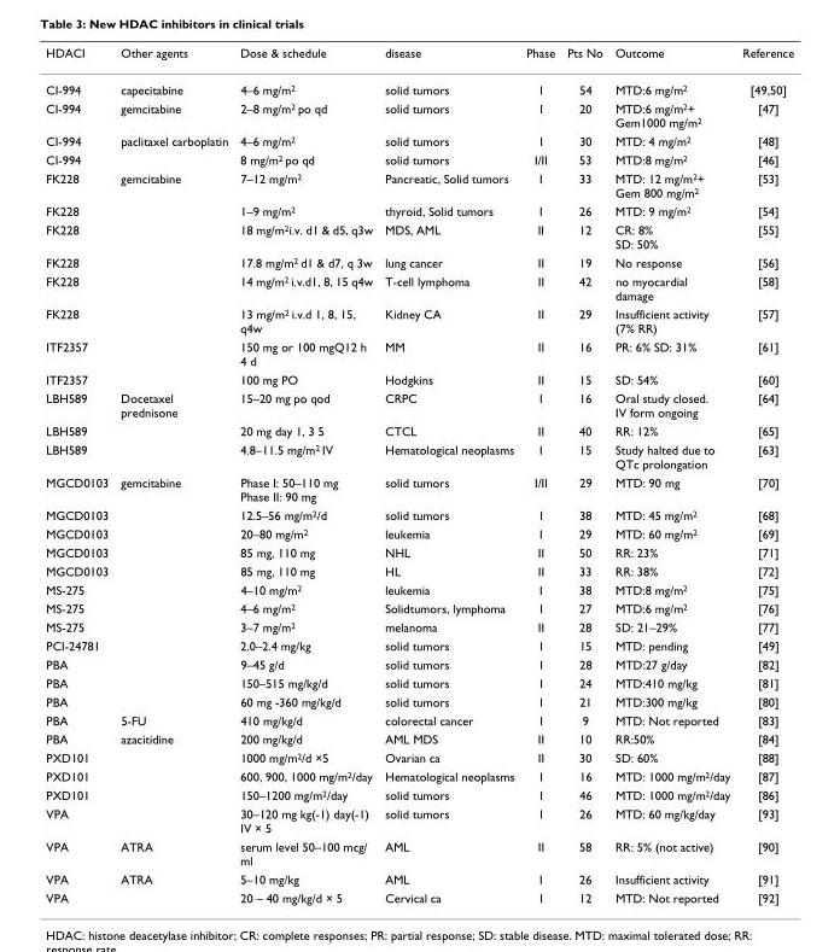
<table><thead><tr><td>HDACI</td><td>Other agents</td><td>Dose &amp; schedule</td><td>disease</td><td>Phase</td><td>Pts No</td><td>Outcome</td><td>Reference</td></tr></thead><tbody><tr><td>CI-994</td><td>capecitabine</td><td>4–6 mg/m<sup>2</sup></td><td>solid tumors</td><td>I</td><td>54</td><td>MTD:6 mg/m<sup>2</sup></td><td>[49,50]</td></tr><tr><td>CI-994</td><td>gemcitabine</td><td>2–8 mg/m<sup>2</sup> po qd</td><td>solid tumors</td><td>I</td><td>20</td><td>MTD:6 mg/m<sup>2</sup>+ Gem1000 mg/m<sup>2</sup></td><td>[47]</td></tr><tr><td>CI-994</td><td>paclitaxel carboplatin</td><td>4–6 mg/m<sup>2</sup></td><td>solid tumors</td><td>I</td><td>30</td><td>MTD: 4 mg/m<sup>2</sup></td><td>[48]</td></tr><tr><td>CI-994</td><td></td><td>8 mg/m<sup>2</sup> po qd</td><td>solid tumors</td><td>I/II</td><td>53</td><td>MTD:8 mg/m<sup>2</sup></td><td>[46]</td></tr><tr><td>FK228</td><td>gemcitabine</td><td>7–12 mg/m<sup>2</sup></td><td>Pancreatic, Solid tumors</td><td>I</td><td>33</td><td>MTD: 12 mg/m<sup>2</sup>+ Gem 800 mg/m<sup>2</sup></td><td>[53]</td></tr><tr><td>FK228</td><td></td><td>1–9 mg/m<sup>2</sup></td><td>thyroid, Solid tumors</td><td>I</td><td>26</td><td>MTD: 9 mg/m<sup>2</sup></td><td>[54]</td></tr><tr><td>FK228</td><td></td><td>18 mg/m<sup>2</sup>i.v. d1 &amp; d5, q3w</td><td>MDS, AML</td><td>II</td><td>12</td><td>CR: 8% SD: 50%</td><td>[55]</td></tr><tr><td>FK228</td><td></td><td>17.8 mg/m<sup>2</sup> d1 &amp; d7, q 3w</td><td>lung cancer</td><td>II</td><td>19</td><td>No response</td><td>[56]</td></tr><tr><td>FK228</td><td></td><td>14 mg/m<sup>2</sup> i.v.d1, 8, 15 q4w</td><td>T-cell lymphoma</td><td>II</td><td>42</td><td>no myocardial damage</td><td>[58]</td></tr><tr><td>FK228</td><td></td><td>13 mg/m<sup>2</sup> i.v.d 1, 8, 15, q4w</td><td>Kidney CA</td><td>II</td><td>29</td><td>Insufficient activity (7% RR)</td><td>[57]</td></tr><tr><td>ITF2357</td><td></td><td>150 mg or 100 mgQ12 h 4 d</td><td>MM</td><td>II</td><td>16</td><td>PR: 6% SD: 31%</td><td>[61]</td></tr><tr><td>ITF2357</td><td></td><td>100 mg PO</td><td>Hodgkins</td><td>II</td><td>15</td><td>SD: 54%</td><td>[60]</td></tr><tr><td>LBH589</td><td>Docetaxel prednisone</td><td>15–20 mg po qod</td><td>CRPC</td><td>I</td><td>16</td><td>Oral study closed. IV form ongoing</td><td>[64]</td></tr><tr><td>LBH589</td><td></td><td>20 mg day 1, 3 5</td><td>CTCL</td><td>II</td><td>40</td><td>RR: 12%</td><td>[65]</td></tr><tr><td>LBH589</td><td></td><td>4.8–11.5 mg/m<sup>2</sup> IV</td><td>Hematological neoplasms</td><td>I</td><td>15</td><td>Study halted due to QTc prolongation</td><td>[63]</td></tr><tr><td>MGCD0103</td><td>gemcitabine</td><td>Phase I: 50–110 mg Phase II: 90 mg</td><td>solid tumors</td><td>I/II</td><td>29</td><td>MTD: 90 mg</td><td>[70]</td></tr><tr><td>MGCD0103</td><td></td><td>12.5–56 mg/m<sup>2</sup>/d</td><td>solid tumors</td><td>I</td><td>38</td><td>MTD: 45 mg/m<sup>2</sup></td><td>[68]</td></tr><tr><td>MGCD0103</td><td></td><td>20–80 mg/m<sup>2</sup></td><td>leukemia</td><td>I</td><td>29</td><td>MTD: 60 mg/m<sup>2</sup></td><td>[69]</td></tr><tr><td>MGCD0103</td><td></td><td>85 mg, 110 mg</td><td>NHL</td><td>II</td><td>50</td><td>RR: 23%</td><td>[71]</td></tr><tr><td>MGCD0103</td><td></td><td>85 mg, 110 mg</td><td>HL</td><td>II</td><td>33</td><td>RR: 38%</td><td>[72]</td></tr><tr><td>MS-275</td><td></td><td>4–10 mg/m<sup>2</sup></td><td>leukemia</td><td>I</td><td>38</td><td>MTD:8 mg/m<sup>2</sup></td><td>[75]</td></tr><tr><td>MS-275</td><td></td><td>4–6 mg/m<sup>2</sup></td><td>Solidtumors, lymphoma</td><td>I</td><td>27</td><td>MTD:6 mg/m<sup>2</sup></td><td>[76]</td></tr><tr><td>MS-275</td><td></td><td>3–7 mg/m<sup>2</sup></td><td>melanoma</td><td>II</td><td>28</td><td>SD: 21–29%</td><td>[77]</td></tr><tr><td>PCI-24781</td><td></td><td>2.0–2.4 mg/kg</td><td>solid tumors</td><td>I</td><td>15</td><td>MTD: pending</td><td>[49]</td></tr><tr><td>PBA</td><td></td><td>9–45 g/d</td><td>solid tumors</td><td>I</td><td>28</td><td>MTD:27 g/day</td><td>[82]</td></tr><tr><td>PBA</td><td></td><td>150–515 mg/kg/d</td><td>solid tumors</td><td>I</td><td>24</td><td>MTD:410 mg/kg</td><td>[81]</td></tr><tr><td>PBA</td><td></td><td>60 mg -360 mg/kg/d</td><td>solid tumors</td><td>I</td><td>21</td><td>MTD:300 mg/kg</td><td>[80]</td></tr><tr><td>PBA</td><td>5-FU</td><td>410 mg/kg/d</td><td>colorectal cancer</td><td>I</td><td>9</td><td>MTD: Not reported</td><td>[83]</td></tr><tr><td>PBA</td><td>azacitidine</td><td>200 mg/kg/d</td><td>AML MDS</td><td>II</td><td>10</td><td>RR:50%</td><td>[84]</td></tr><tr><td>PXD101</td><td></td><td>1000 mg/m<sup>2</sup>/d ×5</td><td>Ovarian ca</td><td>II</td><td>30</td><td>SD: 60%</td><td>[88]</td></tr><tr><td>PXD101</td><td></td><td>600, 900, 1000 mg/m<sup>2</sup>/day</td><td>Hematological neoplasms</td><td>I</td><td>16</td><td>MTD: 1000 mg/m<sup>2</sup>/day</td><td>[87]</td></tr><tr><td>PXD101</td><td></td><td>150–1200 mg/m<sup>2</sup>/day</td><td>solid tumors</td><td>I</td><td>46</td><td>MTD: 1000 mg/m<sup>2</sup>/day</td><td>[86]</td></tr><tr><td>VPA</td><td></td><td>30–120 mg kg(-1) day(-1) IV × 5</td><td>solid tumors</td><td>I</td><td>26</td><td>MTD: 60 mg/kg/day</td><td>[93]</td></tr><tr><td>VPA</td><td>ATRA</td><td>serum level 50–100 mcg/ ml</td><td>AML</td><td>II</td><td>58</td><td>RR: 5% (not active)</td><td>[90]</td></tr><tr><td>VPA</td><td>ATRA</td><td>5–10 mg/kg</td><td>AML</td><td>I</td><td>26</td><td>Insufficient activity</td><td>[91]</td></tr><tr><td>VPA</td><td></td><td>20 – 40 mg/kg/d × 5</td><td>Cervical ca</td><td>I</td><td>12</td><td>MTD: Not reported</td><td>[92]</td></tr></tbody></table>